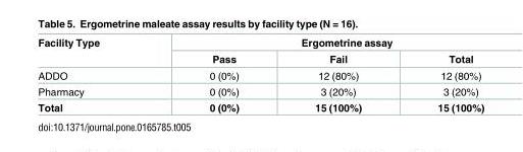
<table><thead><tr><td rowspan="2">Facility Type</td><td colspan="3">Ergometrine assay</td></tr><tr><td>Pass</td><td>Fail</td><td>Total</td></tr></thead><tbody><tr><td>ADDO</td><td>0 (0%)</td><td>12 (80%)</td><td>12 (80%)</td></tr><tr><td>Pharmacy</td><td>0 (0%)</td><td>3 (20%)</td><td>3 (20%)</td></tr><tr><td>Total</td><td>0 (0%)</td><td>15 (100%)</td><td>15 (100%)</td></tr></tbody></table>